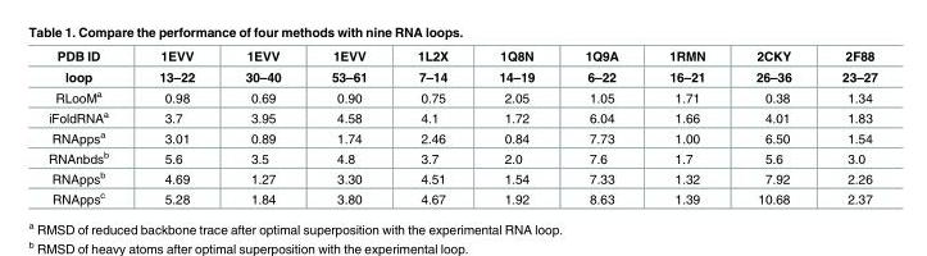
<table><thead><tr><td rowspan="2">PDB ID loop</td><td rowspan="2">1EVV 13–22</td><td rowspan="2">1EVV 30–40</td><td rowspan="2">1EVV 53–61</td><td rowspan="2">1L2X 7–14</td><td rowspan="2">1Q8N 14–19</td><td rowspan="2">1Q9A 6–22</td><td rowspan="2">1RMN 16–21</td><td rowspan="2">2CKY 26–36</td><td rowspan="2">2F88 23–27</td></tr><tr></tr></thead><tbody><tr><td>RLooM<sup>a</sup></td><td>0.98</td><td>0.69</td><td>0.90</td><td>0.75</td><td>2.05</td><td>1.05</td><td>1.71</td><td>0.38</td><td>1.34</td></tr><tr><td>iFoldRNA<sup>a</sup></td><td>3.7</td><td>3.95</td><td>4.58</td><td>4.1</td><td>1.72</td><td>6.04</td><td>1.66</td><td>4.01</td><td>1.83</td></tr><tr><td>RNApps<sup>a</sup></td><td>3.01</td><td>0.89</td><td>1.74</td><td>2.46</td><td>0.84</td><td>7.73</td><td>1.00</td><td>6.50</td><td>1.54</td></tr><tr><td>RNAnbds<sup>b</sup></td><td>5.6</td><td>3.5</td><td>4.8</td><td>3.7</td><td>2.0</td><td>7.6</td><td>1.7</td><td>5.6</td><td>3.0</td></tr><tr><td>RNApps<sup>b</sup></td><td>4.69</td><td>1.27</td><td>3.30</td><td>4.51</td><td>1.54</td><td>7.33</td><td>1.32</td><td>7.92</td><td>2.26</td></tr><tr><td>RNApps<sup>c</sup></td><td>5.28</td><td>1.84</td><td>3.80</td><td>4.67</td><td>1.92</td><td>8.63</td><td>1.39</td><td>10.68</td><td>2.37</td></tr></tbody></table>